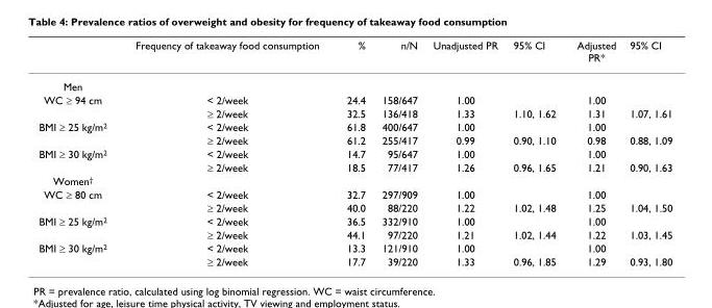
<table><thead><tr><td></td><td>Frequency of takeaway food consumption</td><td>%</td><td>n/N</td><td>Unadjusted PR</td><td>95% CI</td><td>Adjusted PR*</td><td>95% CI</td></tr></thead><tbody><tr><td colspan="8">Men</td></tr><tr><td rowspan="2">WC ≥ 94 cm</td><td>&lt; 2/week</td><td>24.4</td><td>158/647</td><td>1.00</td><td></td><td>1.00</td><td></td></tr><tr><td>≥ 2/week</td><td>32.5</td><td>136/418</td><td>1.33</td><td>1.10, 1.62</td><td>1.31</td><td>1.07, 1.61</td></tr><tr><td rowspan="2">BMI ≥ 25 kg/m<sup>2</sup></td><td>&lt; 2/week</td><td>61.8</td><td>400/647</td><td>1.00</td><td></td><td>1.00</td><td></td></tr><tr><td>≥ 2/week</td><td>61.2</td><td>255/417</td><td>0.99</td><td>0.90, 1.10</td><td>0.98</td><td>0.88, 1.09</td></tr><tr><td rowspan="2">BMI ≥ 30 kg/m<sup>2</sup></td><td>&lt; 2/week</td><td>14.7</td><td>95/647</td><td>1.00</td><td></td><td>1.00</td><td></td></tr><tr><td>≥ 2/week</td><td>18.5</td><td>77/417</td><td>1.26</td><td>0.96, 1.65</td><td>1.21</td><td>0.90, 1.63</td></tr><tr><td colspan="8">Women<sup>†</sup></td></tr><tr><td rowspan="2">WC ≥ 80 cm</td><td>&lt; 2/week</td><td>32.7</td><td>297/909</td><td>1.00</td><td></td><td>1.00</td><td></td></tr><tr><td>≥ 2/week</td><td>40.0</td><td>88/220</td><td>1.22</td><td>1.02, 1.48</td><td>1.25</td><td>1.04, 1.50</td></tr><tr><td rowspan="2">BMI ≥ 25 kg/m<sup>2</sup></td><td>&lt; 2/week</td><td>36.5</td><td>332/910</td><td>1.00</td><td></td><td>1.00</td><td></td></tr><tr><td>≥ 2/week</td><td>44.1</td><td>97/220</td><td>1.21</td><td>1.02, 1.44</td><td>1.22</td><td>1.03, 1.45</td></tr><tr><td rowspan="2">BMI ≥ 30 kg/m<sup>2</sup></td><td>&lt; 2/week</td><td>13.3</td><td>121/910</td><td>1.00</td><td></td><td>1.00</td><td></td></tr><tr><td>≥ 2/week</td><td>17.7</td><td>39/220</td><td>1.33</td><td>0.96, 1.85</td><td>1.29</td><td>0.93, 1.80</td></tr></tbody></table>